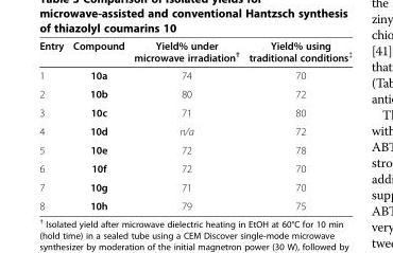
<table><thead><tr><td>Entry</td><td>Compound</td><td>Yield% under microwave irradiation<sup>†</sup></td><td>Yield% using traditional conditions<sup>‡</sup></td></tr></thead><tbody><tr><td>1</td><td>10a</td><td>74</td><td>70</td></tr><tr><td>2</td><td>10b</td><td>80</td><td>72</td></tr><tr><td>3</td><td>10c</td><td>71</td><td>80</td></tr><tr><td>4</td><td>10d</td><td>n/a</td><td>72</td></tr><tr><td>5</td><td>10e</td><td>72</td><td>78</td></tr><tr><td>6</td><td>10f</td><td>72</td><td>70</td></tr><tr><td>7</td><td>10g</td><td>71</td><td>70</td></tr><tr><td>8</td><td>10h</td><td>79</td><td>75</td></tr></tbody></table>